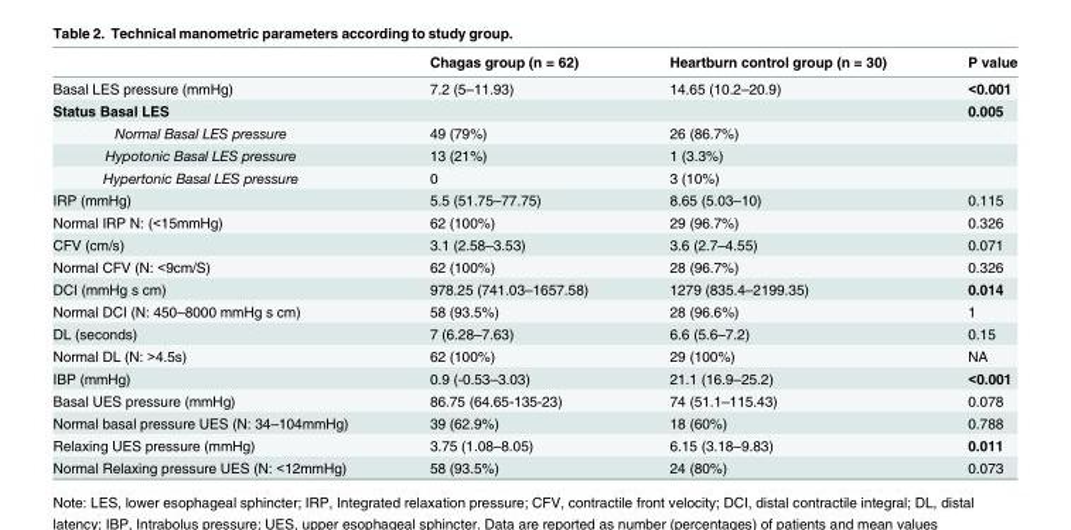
<table><thead><tr><td></td><td>Chagas group (n = 62)</td><td>Heartburn control group (n = 30)</td><td>P value</td></tr></thead><tbody><tr><td>Basal LES pressure (mmHg)</td><td>7.2 (5–11.93)</td><td>14.65 (10.2–20.9)</td><td>&lt;0.001</td></tr><tr><td>Status Basal LES</td><td></td><td></td><td>0.005</td></tr><tr><td>Normal Basal LES pressure</td><td>49 (79%)</td><td>26 (86.7%)</td><td></td></tr><tr><td>Hypotonic Basal LES pressure</td><td>13 (21%)</td><td>1 (3.3%)</td><td></td></tr><tr><td>Hypertonic Basal LES pressure</td><td>0</td><td>3 (10%)</td><td></td></tr><tr><td>IRP (mmHg)</td><td>5.5 (51.75–77.75)</td><td>8.65 (5.03–10)</td><td>0.115</td></tr><tr><td>Normal IRP N: (&lt;15mmHg)</td><td>62 (100%)</td><td>29 (96.7%)</td><td>0.326</td></tr><tr><td>CFV (cm/s)</td><td>3.1 (2.58–3.53)</td><td>3.6 (2.7–4.55)</td><td>0.071</td></tr><tr><td>Normal CFV (N: &lt;9cm/S)</td><td>62 (100%)</td><td>28 (96.7%)</td><td>0.326</td></tr><tr><td>DCI (mmHg s cm)</td><td>978.25 (741.03–1657.58)</td><td>1279 (835.4–2199.35)</td><td>0.014</td></tr><tr><td>Normal DCI (N: 450–8000 mmHg s cm)</td><td>58 (93.5%)</td><td>28 (96.6%)</td><td>1</td></tr><tr><td>DL (seconds)</td><td>7 (6.28–7.63)</td><td>6.6 (5.6–7.2)</td><td>0.15</td></tr><tr><td>Normal DL (N: &gt;4.5s)</td><td>62 (100%)</td><td>29 (100%)</td><td>NA</td></tr><tr><td>IBP (mmHg)</td><td>0.9 (-0.53–3.03)</td><td>21.1 (16.9–25.2)</td><td>&lt;0.001</td></tr><tr><td>Basal UES pressure (mmHg)</td><td>86.75 (64.65-135-23)</td><td>74 (51.1–115.43)</td><td>0.078</td></tr><tr><td>Normal basal pressure UES (N: 34–104mmHg)</td><td>39 (62.9%)</td><td>18 (60%)</td><td>0.788</td></tr><tr><td>Relaxing UES pressure (mmHg)</td><td>3.75 (1.08–8.05)</td><td>6.15 (3.18–9.83)</td><td>0.011</td></tr><tr><td>Normal Relaxing pressure UES (N: &lt;12mmHg)</td><td>58 (93.5%)</td><td>24 (80%)</td><td>0.073</td></tr></tbody></table>